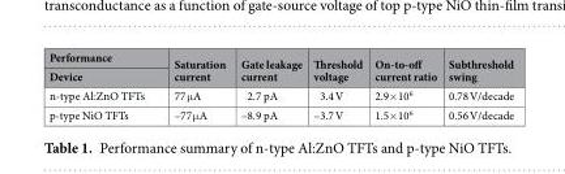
<table><thead><tr><td rowspan="2">Performance Device</td><td rowspan="2">Saturation current</td><td rowspan="2">Gate leakage current</td><td rowspan="2">Threshold voltage</td><td rowspan="2">On-to-off current ratio</td><td rowspan="2">Subthreshold swing</td></tr><tr></tr></thead><tbody><tr><td>n-type Al:ZnO TFTs</td><td>77 μA</td><td>2.7 pA</td><td>3.4 V</td><td>2.9×10<sup>6</sup></td><td>0.78 V/decade</td></tr><tr><td>p-type NiO TFTs</td><td>–77 μA</td><td>–8.9 pA</td><td>–3.7 V</td><td>1.5×10<sup>6</sup></td><td>0.56 V/decade</td></tr></tbody></table>